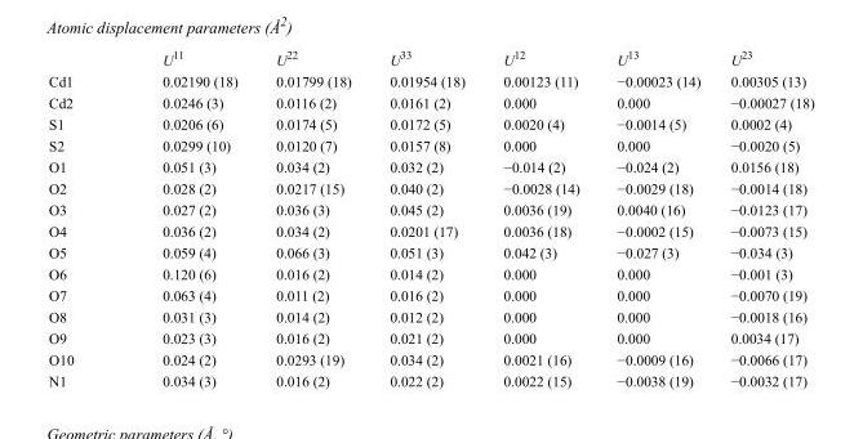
<table><thead><tr><td></td><td>U<sup>11</sup></td><td>U<sup>22</sup></td><td>U<sup>33</sup></td><td>U<sup>12</sup></td><td>U<sup>13</sup></td><td>U<sup>23</sup></td></tr></thead><tbody><tr><td>Cd1</td><td>0.02190 (18)</td><td>0.01799 (18)</td><td>0.01954 (18)</td><td>0.00123 (11)</td><td>−0.00023 (14)</td><td>0.00305 (13)</td></tr><tr><td>Cd2</td><td>0.0246 (3)</td><td>0.0116 (2)</td><td>0.0161 (2)</td><td>0.000</td><td>0.000</td><td>−0.00027 (18)</td></tr><tr><td>S1</td><td>0.0206 (6)</td><td>0.0174 (5)</td><td>0.0172 (5)</td><td>0.0020 (4)</td><td>−0.0014 (5)</td><td>0.0002 (4)</td></tr><tr><td>S2</td><td>0.0299 (10)</td><td>0.0120 (7)</td><td>0.0157 (8)</td><td>0.000</td><td>0.000</td><td>−0.0020 (5)</td></tr><tr><td>O1</td><td>0.051 (3)</td><td>0.034 (2)</td><td>0.032 (2)</td><td>−0.014 (2)</td><td>−0.024 (2)</td><td>0.0156 (18)</td></tr><tr><td>O2</td><td>0.028 (2)</td><td>0.0217 (15)</td><td>0.040 (2)</td><td>−0.0028 (14)</td><td>−0.0029 (18)</td><td>−0.0014 (18)</td></tr><tr><td>O3</td><td>0.027 (2)</td><td>0.036 (3)</td><td>0.045 (2)</td><td>0.0036 (19)</td><td>0.0040 (16)</td><td>−0.0123 (17)</td></tr><tr><td>O4</td><td>0.036 (2)</td><td>0.034 (2)</td><td>0.0201 (17)</td><td>0.0036 (18)</td><td>−0.0002 (15)</td><td>−0.0073 (15)</td></tr><tr><td>O5</td><td>0.059 (4)</td><td>0.066 (3)</td><td>0.051 (3)</td><td>0.042 (3)</td><td>−0.027 (3)</td><td>−0.034 (3)</td></tr><tr><td>O6</td><td>0.120 (6)</td><td>0.016 (2)</td><td>0.014 (2)</td><td>0.000</td><td>0.000</td><td>−0.001 (3)</td></tr><tr><td>O7</td><td>0.063 (4)</td><td>0.011 (2)</td><td>0.016 (2)</td><td>0.000</td><td>0.000</td><td>−0.0070 (19)</td></tr><tr><td>O8</td><td>0.031 (3)</td><td>0.014 (2)</td><td>0.012 (2)</td><td>0.000</td><td>0.000</td><td>−0.0018 (16)</td></tr><tr><td>O9</td><td>0.023 (3)</td><td>0.016 (2)</td><td>0.021 (2)</td><td>0.000</td><td>0.000</td><td>0.0034 (17)</td></tr><tr><td>O10</td><td>0.024 (2)</td><td>0.0293 (19)</td><td>0.034 (2)</td><td>0.0021 (16)</td><td>−0.0009 (16)</td><td>−0.0066 (17)</td></tr><tr><td>N1</td><td>0.034 (3)</td><td>0.016 (2)</td><td>0.022 (2)</td><td>0.0022 (15)</td><td>−0.0038 (19)</td><td>−0.0032 (17)</td></tr></tbody></table>